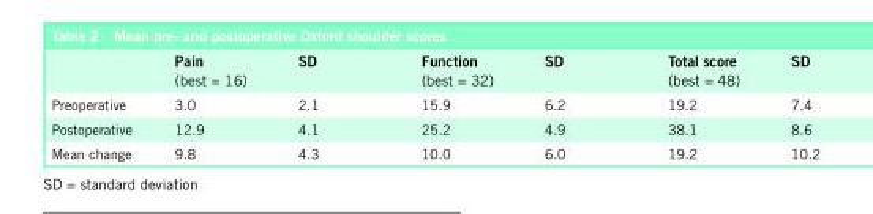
<table><thead><tr><td></td><td>Pain (best = 16)</td><td>SD</td><td>Function (best = 32)</td><td>SD</td><td>Total score (best = 48)</td><td>SD</td></tr></thead><tbody><tr><td>Preoperative</td><td>3.0</td><td>2.1</td><td>15.9</td><td>6.2</td><td>19.2</td><td>7.4</td></tr><tr><td>Postoperative</td><td>12.9</td><td>4.1</td><td>25.2</td><td>4.9</td><td>38.1</td><td>8.6</td></tr><tr><td>Mean change</td><td>9.8</td><td>4.3</td><td>10.0</td><td>6.0</td><td>19.2</td><td>10.2</td></tr></tbody></table>